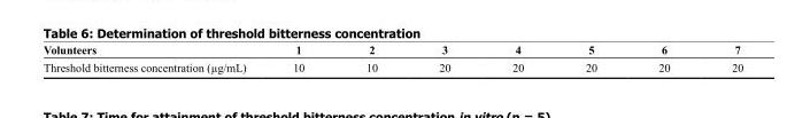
<table><thead><tr><td>Volunteers</td><td>1</td><td>2</td><td>3</td><td>4</td><td>5</td><td>6</td><td>7</td></tr></thead><tbody><tr><td>Threshold bitterness concentration (µg/mL)</td><td>10</td><td>10</td><td>20</td><td>20</td><td>20</td><td>20</td><td>20</td></tr></tbody></table>